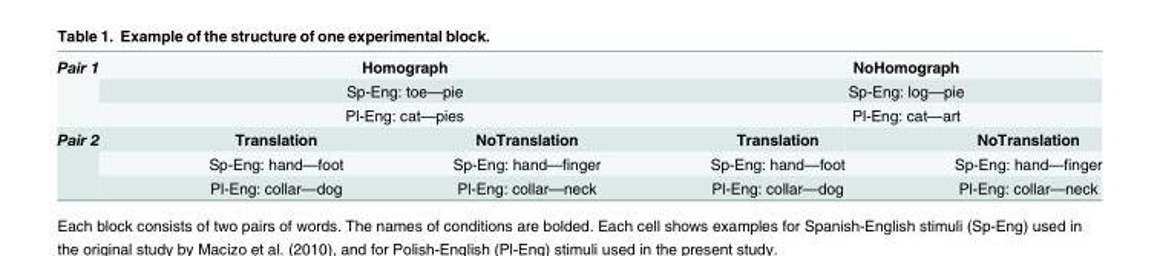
<table><tbody><tr><td rowspan="3">Pair 1</td><td colspan="2">Homograph</td><td colspan="2">NoHomograph</td></tr><tr><td colspan="2">Sp-Eng: toe—pie</td><td colspan="2">Sp-Eng: log—pie</td></tr><tr><td colspan="2">Pl-Eng: cat—pies</td><td colspan="2">Pl-Eng: cat—art</td></tr><tr><td rowspan="3">Pair 2</td><td>Translation</td><td>NoTranslation</td><td>Translation</td><td>NoTranslation</td></tr><tr><td>Sp-Eng: hand—foot</td><td>Sp-Eng: hand—finger</td><td>Sp-Eng: hand—foot</td><td>Sp-Eng: hand—finger</td></tr><tr><td>Pl-Eng: collar—dog</td><td>Pl-Eng: collar—neck</td><td>Pl-Eng: collar—dog</td><td>Pl-Eng: collar—neck</td></tr></tbody></table>